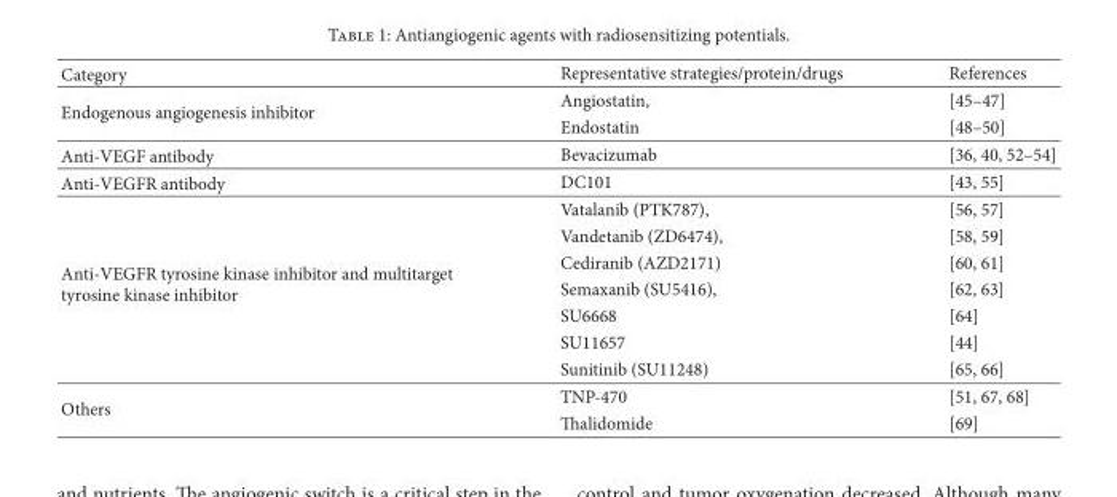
<table><thead><tr><td>Category</td><td>Representative strategies/protein/drugs</td><td>References</td></tr></thead><tbody><tr><td rowspan="2">Endogenous angiogenesis inhibitor</td><td>Angiostatin,</td><td>[45–47]</td></tr><tr><td>Endostatin</td><td>[48–50]</td></tr><tr><td>Anti-VEGF antibody</td><td>Bevacizumab</td><td>[36, 40, 52–54]</td></tr><tr><td>Anti-VEGFR antibody</td><td>DC101</td><td>[43, 55]</td></tr><tr><td rowspan="7">Anti-VEGFR tyrosine kinase inhibitor and multitarget tyrosine kinase inhibitor</td><td>Vatalanib (PTK787),</td><td>[56, 57]</td></tr><tr><td>Vandetanib (ZD6474),</td><td>[58, 59]</td></tr><tr><td>Cediranib (AZD2171)</td><td>[60, 61]</td></tr><tr><td>Semaxanib (SU5416),</td><td>[62, 63]</td></tr><tr><td>SU6668</td><td>[64]</td></tr><tr><td>SU11657</td><td>[44]</td></tr><tr><td>Sunitinib (SU11248)</td><td>[65, 66]</td></tr><tr><td rowspan="2">Others</td><td>TNP-470</td><td>[51, 67, 68]</td></tr><tr><td>alidomide</td><td>[69]</td></tr></tbody></table>